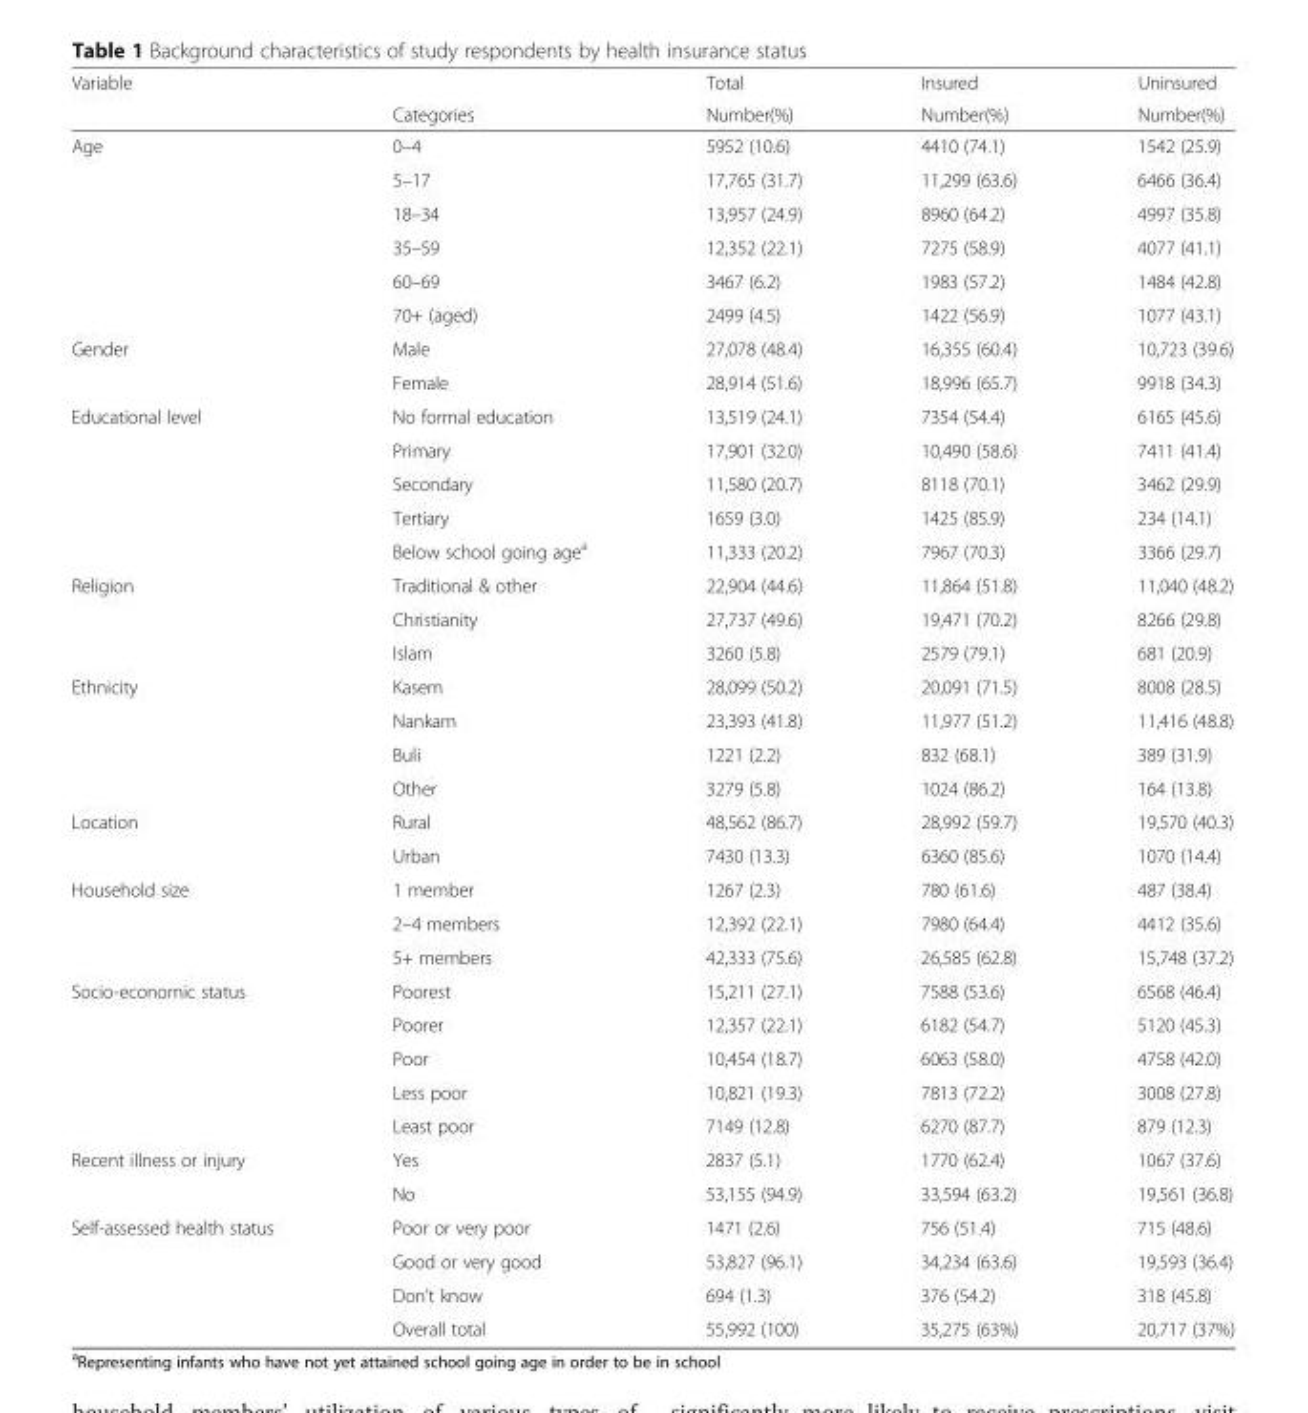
<table><thead><tr><td rowspan="2">Variable</td><td rowspan="2">Categories</td><td rowspan="2">Total Number(%)</td><td rowspan="2">Insured Number(%)</td><td rowspan="2">Uninsured Number(%)</td></tr><tr></tr></thead><tbody><tr><td rowspan="6">Age</td><td>0–4</td><td>5952 (10.6)</td><td>4410 (74.1)</td><td>1542 (25.9)</td></tr><tr><td>5–17</td><td>17,765 (31.7)</td><td>11,299 (63.6)</td><td>6466 (36.4)</td></tr><tr><td>18–34</td><td>13,957 (24.9)</td><td>8960 (64.2)</td><td>4997 (35.8)</td></tr><tr><td>35–59</td><td>12,352 (22.1)</td><td>7275 (58.9)</td><td>4077 (41.1)</td></tr><tr><td>60–69</td><td>3467 (6.2)</td><td>1983 (57.2)</td><td>1484 (42.8)</td></tr><tr><td>70+ (aged)</td><td>2499 (4.5)</td><td>1422 (56.9)</td><td>1077 (43.1)</td></tr><tr><td rowspan="2">Gender</td><td>Male</td><td>27,078 (48.4)</td><td>16,355 (60.4)</td><td>10,723 (39.6)</td></tr><tr><td>Female</td><td>28,914 (51.6)</td><td>18,996 (65.7)</td><td>9918 (34.3)</td></tr><tr><td rowspan="5">Educational level</td><td>No formal education</td><td>13,519 (24.1)</td><td>7354 (54.4)</td><td>6165 (45.6)</td></tr><tr><td>Primary</td><td>17,901 (32.0)</td><td>10,490 (58.6)</td><td>7411 (41.4)</td></tr><tr><td>Secondary</td><td>11,580 (20.7)</td><td>8118 (70.1)</td><td>3462 (29.9)</td></tr><tr><td>Tertiary</td><td>1659 (3.0)</td><td>1425 (85.9)</td><td>234 (14.1)</td></tr><tr><td>Below school going age<sup>a</sup></td><td>11,333 (20.2)</td><td>7967 (70.3)</td><td>3366 (29.7)</td></tr><tr><td rowspan="3">Religion</td><td>Traditional &amp; other</td><td>22,904 (44.6)</td><td>11,864 (51.8)</td><td>11,040 (48.2)</td></tr><tr><td>Christianity</td><td>27,737 (49.6)</td><td>19,471 (70.2)</td><td>8266 (29.8)</td></tr><tr><td>Islam</td><td>3260 (5.8)</td><td>2579 (79.1)</td><td>681 (20.9)</td></tr><tr><td rowspan="4">Ethnicity</td><td>Kasem</td><td>28,099 (50.2)</td><td>20,091 (71.5)</td><td>8008 (28.5)</td></tr><tr><td>Nankam</td><td>23,393 (41.8)</td><td>11,977 (51.2)</td><td>11,416 (48.8)</td></tr><tr><td>Buli</td><td>1221 (2.2)</td><td>832 (68.1)</td><td>389 (31.9)</td></tr><tr><td>Other</td><td>3279 (5.8)</td><td>1024 (86.2)</td><td>164 (13.8)</td></tr><tr><td rowspan="2">Location</td><td>Rural</td><td>48,562 (86.7)</td><td>28,992 (59.7)</td><td>19,570 (40.3)</td></tr><tr><td>Urban</td><td>7430 (13.3)</td><td>6360 (85.6)</td><td>1070 (14.4)</td></tr><tr><td rowspan="3">Household size</td><td>1 member</td><td>1267 (2.3)</td><td>780 (61.6)</td><td>487 (38.4)</td></tr><tr><td>2–4 members</td><td>12,392 (22.1)</td><td>7980 (64.4)</td><td>4412 (35.6)</td></tr><tr><td>5+ members</td><td>42,333 (75.6)</td><td>26,585 (62.8)</td><td>15,748 (37.2)</td></tr><tr><td rowspan="5">Socio-economic status</td><td>Poorest</td><td>15,211 (27.1)</td><td>7588 (53.6)</td><td>6568 (46.4)</td></tr><tr><td>Poorer</td><td>12,357 (22.1)</td><td>6182 (54.7)</td><td>5120 (45.3)</td></tr><tr><td>Poor</td><td>10,454 (18.7)</td><td>6063 (58.0)</td><td>4758 (42.0)</td></tr><tr><td>Less poor</td><td>10,821 (19.3)</td><td>7813 (72.2)</td><td>3008 (27.8)</td></tr><tr><td>Least poor</td><td>7149 (12.8)</td><td>6270 (87.7)</td><td>879 (12.3)</td></tr><tr><td rowspan="2">Recent illness or injury</td><td>Yes</td><td>2837 (5.1)</td><td>1770 (62.4)</td><td>1067 (37.6)</td></tr><tr><td>No</td><td>53,155 (94.9)</td><td>33,594 (63.2)</td><td>19,561 (36.8)</td></tr><tr><td rowspan="4">Self-assessed health status</td><td>Poor or very poor</td><td>1471 (2.6)</td><td>756 (51.4)</td><td>715 (48.6)</td></tr><tr><td>Good or very good</td><td>53,827 (96.1)</td><td>34,234 (63.6)</td><td>19,593 (36.4)</td></tr><tr><td>Don’t know</td><td>694 (1.3)</td><td>376 (54.2)</td><td>318 (45.8)</td></tr><tr><td>Overall total</td><td>55,992 (100)</td><td>35,275 (63%)</td><td>20,717 (37%)</td></tr></tbody></table>